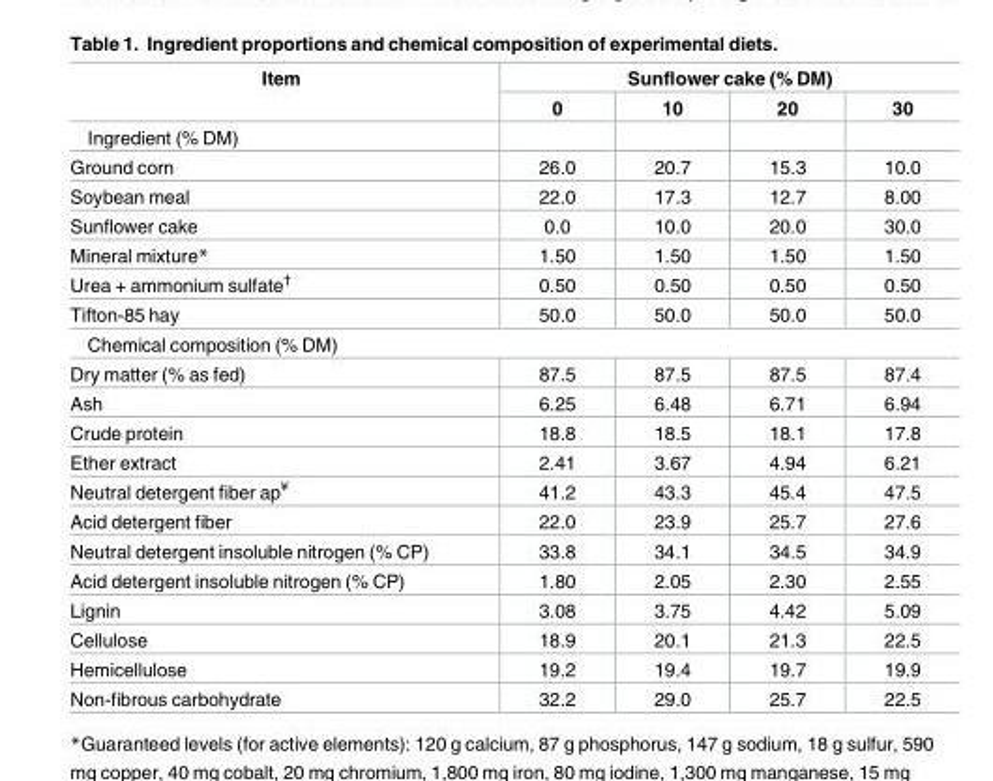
<table><thead><tr><td rowspan="2">Item</td><td colspan="4">Sunflower cake (% DM)</td></tr><tr><td>0</td><td>10</td><td>20</td><td>30</td></tr></thead><tbody><tr><td colspan="5">Ingredient (% DM)</td></tr><tr><td>Ground corn</td><td>26.0</td><td>20.7</td><td>15.3</td><td>10.0</td></tr><tr><td>Soybean meal</td><td>22.0</td><td>17.3</td><td>12.7</td><td>8.00</td></tr><tr><td>Sunflower cake</td><td>0.0</td><td>10.0</td><td>20.0</td><td>30.0</td></tr><tr><td>Mineral mixture*</td><td>1.50</td><td>1.50</td><td>1.50</td><td>1.50</td></tr><tr><td>Urea + ammonium sulfate<sup>†</sup></td><td>0.50</td><td>0.50</td><td>0.50</td><td>0.50</td></tr><tr><td>Tifton-85 hay</td><td>50.0</td><td>50.0</td><td>50.0</td><td>50.0</td></tr><tr><td colspan="5">Chemical composition (% DM)</td></tr><tr><td>Dry matter (% as fed)</td><td>87.5</td><td>87.5</td><td>87.5</td><td>87.4</td></tr><tr><td>Ash</td><td>6.25</td><td>6.48</td><td>6.71</td><td>6.94</td></tr><tr><td>Crude protein</td><td>18.8</td><td>18.5</td><td>18.1</td><td>17.8</td></tr><tr><td>Ether extract</td><td>2.41</td><td>3.67</td><td>4.94</td><td>6.21</td></tr><tr><td>Neutral detergent fiber ap<sup>¥</sup></td><td>41.2</td><td>43.3</td><td>45.4</td><td>47.5</td></tr><tr><td>Acid detergent fiber</td><td>22.0</td><td>23.9</td><td>25.7</td><td>27.6</td></tr><tr><td>Neutral detergent insoluble nitrogen (% CP)</td><td>33.8</td><td>34.1</td><td>34.5</td><td>34.9</td></tr><tr><td>Acid detergent insoluble nitrogen (% CP)</td><td>1.80</td><td>2.05</td><td>2.30</td><td>2.55</td></tr><tr><td>Lignin</td><td>3.08</td><td>3.75</td><td>4.42</td><td>5.09</td></tr><tr><td>Cellulose</td><td>18.9</td><td>20.1</td><td>21.3</td><td>22.5</td></tr><tr><td>Hemicellulose</td><td>19.2</td><td>19.4</td><td>19.7</td><td>19.9</td></tr><tr><td>Non-fibrous carbohydrate</td><td>32.2</td><td>29.0</td><td>25.7</td><td>22.5</td></tr></tbody></table>